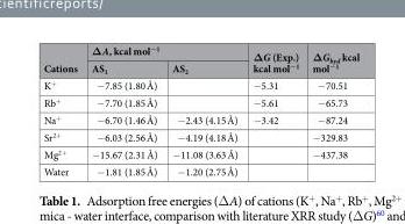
<table><thead><tr><td rowspan="2">Cations</td><td colspan="2">ΔA, kcal mol<sup>−1</sup></td><td rowspan="2">ΔG (Exp.) kcal mol<sup>−1</sup></td><td rowspan="2">ΔG<sub>hyd</sub> kcal mol<sup>−1</sup></td></tr><tr><td>AS<sub>1</sub></td><td>AS<sub>2</sub></td></tr></thead><tbody><tr><td>K<sup>+</sup></td><td>−7.85 (1.80 Å)</td><td></td><td>−5.31</td><td>−70.51</td></tr><tr><td>Rb<sup>+</sup></td><td>−7.70 (1.85 Å)</td><td></td><td>−5.61</td><td>−65.73</td></tr><tr><td>Na<sup>+</sup></td><td>−6.70 (1.46 Å)</td><td>−2.43 (4.15 Å)</td><td>−3.42</td><td>−87.24</td></tr><tr><td>Sr<sup>2+</sup></td><td>−6.03 (2.56 Å)</td><td>−4.19 (4.18 Å)</td><td></td><td>−329.83</td></tr><tr><td>Mg<sup>2+</sup></td><td>−15.67 (2.31 Å)</td><td>−11.08 (3.63 Å)</td><td></td><td>−437.38</td></tr><tr><td>Water</td><td>−1.81 (1.85 Å)</td><td>−1.20 (2.75 Å)</td><td></td><td></td></tr></tbody></table>